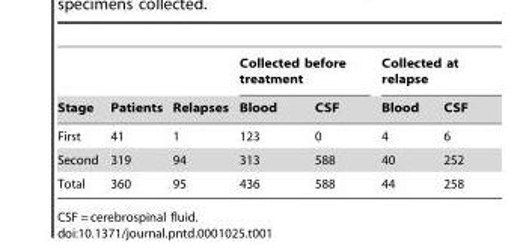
<table><thead><tr><td rowspan="2">Stage</td><td rowspan="2">Patients</td><td rowspan="2">Relapses</td><td colspan="2">Collected before treatment</td><td colspan="2">Collected at relapse</td></tr><tr><td>Blood</td><td>CSF</td><td>Blood</td><td>CSF</td></tr></thead><tbody><tr><td>First</td><td>41</td><td>1</td><td>123</td><td>0</td><td>4</td><td>6</td></tr><tr><td>Second</td><td>319</td><td>94</td><td>313</td><td>588</td><td>40</td><td>252</td></tr><tr><td>Total</td><td>360</td><td>95</td><td>436</td><td>588</td><td>44</td><td>258</td></tr></tbody></table>